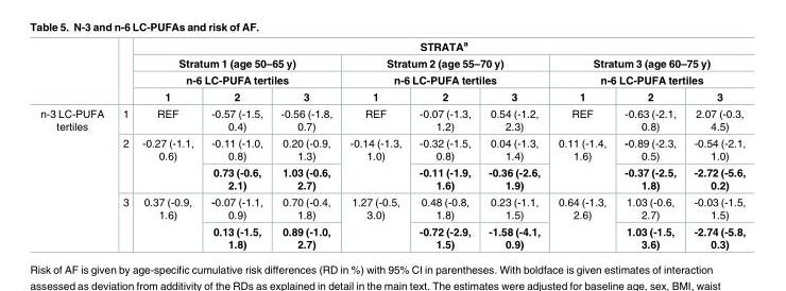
<table><thead><tr><td rowspan="4"></td><td rowspan="4"></td><td colspan="9">STRATA<sup>a</sup></td></tr><tr><td rowspan="2" colspan="3">Stratum 1 (age 50–65 y) n-6 LC-PUFA tertiles</td><td rowspan="2" colspan="3">Stratum 2 (age 55–70 y) n-6 LC-PUFA tertiles</td><td rowspan="2" colspan="3">Stratum 3 (age 60–75 y) n-6 LC-PUFA tertiles</td></tr><tr></tr><tr><td>1</td><td>2</td><td>3</td><td>1</td><td>2</td><td>3</td><td>1</td><td>2</td><td>3</td></tr></thead><tbody><tr><td rowspan="5">n-3 LC-PUFA tertiles</td><td>1</td><td>REF</td><td>-0.57 (-1.5, 0.4)</td><td>-0.56 (-1.8, 0.7)</td><td>REF</td><td>-0.07 (-1.3, 1.2)</td><td>0.54 (-1.2, 2.3)</td><td>REF</td><td>-0.63 (-2.1, 0.8)</td><td>2.07 (-0.3, 4.5)</td></tr><tr><td rowspan="2">2</td><td rowspan="2">-0.27 (-1.1, 0.6)</td><td>-0.11 (-1.0, 0.8)</td><td>0.20 (-0.9, 1.3)</td><td rowspan="2">-0.14 (-1.3, 1.0)</td><td>-0.32 (-1.5, 0.8)</td><td>0.04 (-1.3, 1.4)</td><td rowspan="2">0.11 (-1.4, 1.6)</td><td>-0.89 (-2.3, 0.5)</td><td>-0.54 (-2.1, 1.0)</td></tr><tr><td>0.73 (-0.6, 2.1)</td><td>1.03 (-0.6, 2.7)</td><td>-0.11 (-1.9, 1.6)</td><td>-0.36 (-2.6, 1.9)</td><td>-0.37 (-2.5, 1.8)</td><td>-2.72 (-5.6, 0.2)</td></tr><tr><td rowspan="2">3</td><td rowspan="2">0.37 (-0.9, 1.6)</td><td>-0.07 (-1.1, 0.9)</td><td>0.70 (-0.4, 1.8)</td><td rowspan="2">1.27 (-0.5, 3.0)</td><td>0.48 (-0.8, 1.8)</td><td>0.23 (-1.1, 1.5)</td><td rowspan="2">0.64 (-1.3, 2.6)</td><td>1.03 (-0.6, 2.7)</td><td>-0.03 (-1.5, 1.5)</td></tr><tr><td>0.13 (-1.5, 1.8)</td><td>0.89 (-1.0, 2.7)</td><td>-0.72 (-2.9, 1.5)</td><td>-1.58 (-4.1, 0.9)</td><td>1.03 (-1.5, 3.6)</td><td>-2.74 (-5.8, 0.3)</td></tr></tbody></table>